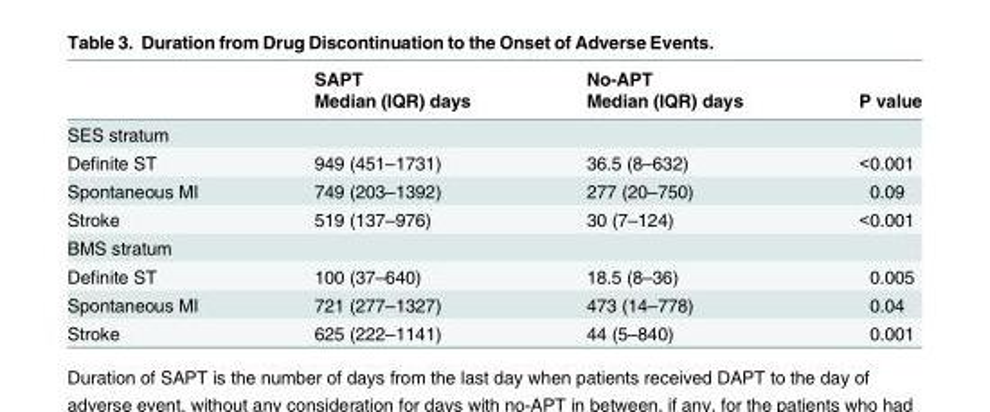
<table><thead><tr><td rowspan="2"></td><td rowspan="2">SAPT Median (IQR) days</td><td rowspan="2">No-APT Median (IQR) days</td><td rowspan="2">P value</td></tr><tr></tr></thead><tbody><tr><td colspan="4">SES stratum</td></tr><tr><td>Definite ST</td><td>949 (451–1731)</td><td>36.5 (8–632)</td><td>&lt;0.001</td></tr><tr><td>Spontaneous MI</td><td>749 (203–1392)</td><td>277 (20–750)</td><td>0.09</td></tr><tr><td>Stroke</td><td>519 (137–976)</td><td>30 (7–124)</td><td>&lt;0.001</td></tr><tr><td colspan="4">BMS stratum</td></tr><tr><td>Definite ST</td><td>100 (37–640)</td><td>18.5 (8–36)</td><td>0.005</td></tr><tr><td>Spontaneous MI</td><td>721 (277–1327)</td><td>473 (14–778)</td><td>0.04</td></tr><tr><td>Stroke</td><td>625 (222–1141)</td><td>44 (5–840)</td><td>0.001</td></tr></tbody></table>